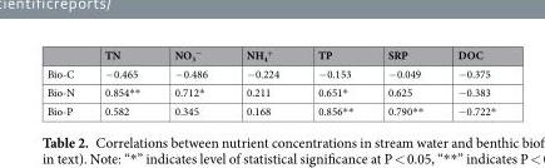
<table><thead><tr><td></td><td>TN</td><td>NO<sub>3</sub> <sup>−</sup></td><td>NH<sub>4</sub> <sup>+</sup></td><td>TP</td><td>SRP</td><td>DOC</td></tr></thead><tbody><tr><td>Bio-C</td><td>−0.465</td><td>−0.486</td><td>−0.224</td><td>−0.153</td><td>−0.049</td><td>−0.375</td></tr><tr><td>Bio-N</td><td>0.854**</td><td>0.712*</td><td>0.211</td><td>0.651*</td><td>0.625</td><td>−0.383</td></tr><tr><td>Bio-P</td><td>0.582</td><td>0.345</td><td>0.168</td><td>0.856**</td><td>0.790**</td><td>−0.722*</td></tr></tbody></table>